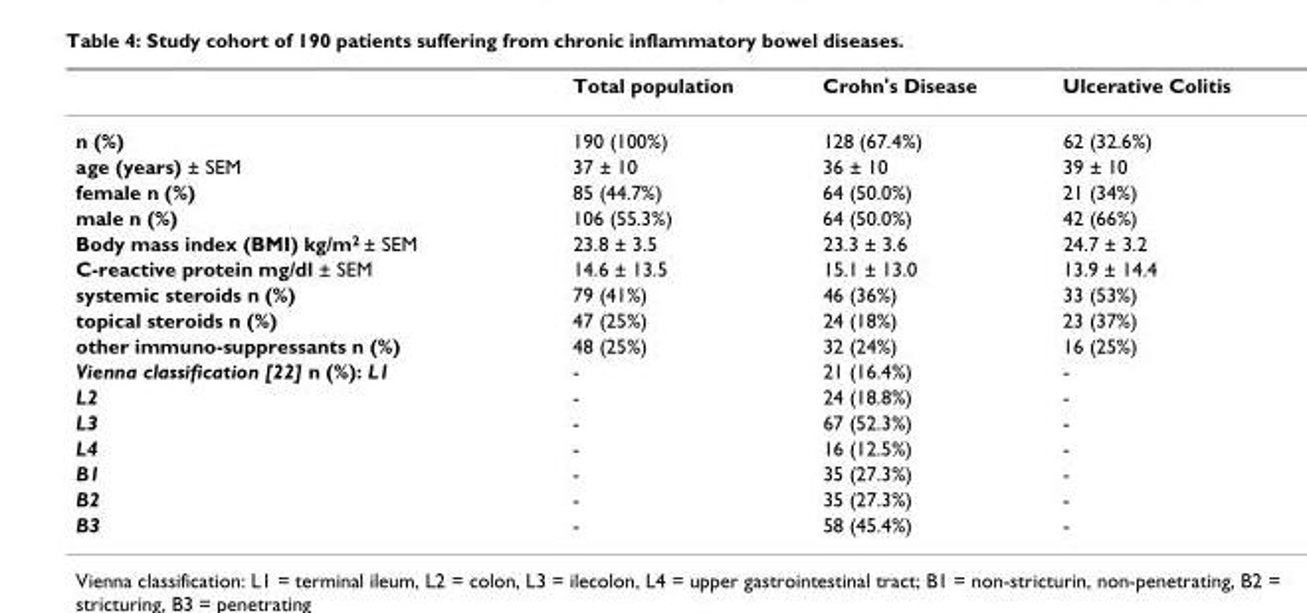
<table><thead><tr><td></td><td>Total population</td><td>Crohn&#x27;s Disease</td><td>Ulcerative Colitis</td></tr></thead><tbody><tr><td>n (%)</td><td>190 (100%)</td><td>128 (67.4%)</td><td>62 (32.6%)</td></tr><tr><td>age (years) ± SEM</td><td>37 ± 10</td><td>36 ± 10</td><td>39 ± 10</td></tr><tr><td>female n (%)</td><td>85 (44.7%)</td><td>64 (50.0%)</td><td>21 (34%)</td></tr><tr><td>male n (%)</td><td>106 (55.3%)</td><td>64 (50.0%)</td><td>42 (66%)</td></tr><tr><td>Body mass index (BMI) kg/m<sup>2</sup> ± SEM</td><td>23.8 ± 3.5</td><td>23.3 ± 3.6</td><td>24.7 ± 3.2</td></tr><tr><td>C-reactive protein mg/dl ± SEM</td><td>14.6 ± 13.5</td><td>15.1 ± 13.0</td><td>13.9 ± 14.4</td></tr><tr><td>systemic steroids n (%)</td><td>79 (41%)</td><td>46 (36%)</td><td>33 (53%)</td></tr><tr><td>topical steroids n (%)</td><td>47 (25%)</td><td>24 (18%)</td><td>23 (37%)</td></tr><tr><td>other immuno-suppressants n (%)</td><td>48 (25%)</td><td>32 (24%)</td><td>16 (25%)</td></tr><tr><td>Vienna classification [22] n (%): L1</td><td>-</td><td>21 (16.4%)</td><td>-</td></tr><tr><td>L2</td><td>-</td><td>24 (18.8%)</td><td>-</td></tr><tr><td>L3</td><td>-</td><td>67 (52.3%)</td><td>-</td></tr><tr><td>L4</td><td>-</td><td>16 (12.5%)</td><td>-</td></tr><tr><td>B1</td><td>-</td><td>35 (27.3%)</td><td>-</td></tr><tr><td>B2</td><td>-</td><td>35 (27.3%)</td><td>-</td></tr><tr><td>B3</td><td>-</td><td>58 (45.4%)</td><td>-</td></tr></tbody></table>